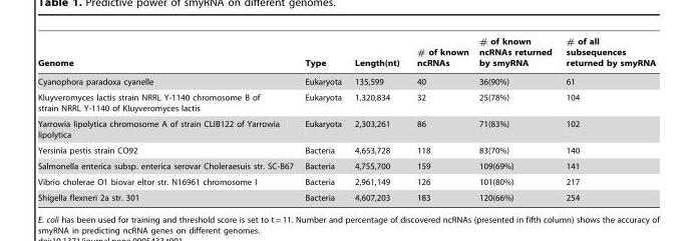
<table><thead><tr><td>Genome</td><td>Type</td><td>Length(nt)</td><td># of known ncRNAs</td><td># of known ncRNAs returned by smyRNA</td><td># of all subsequences returned by smyRNA</td></tr></thead><tbody><tr><td>Cyanophora paradoxa cyanelle</td><td>Eukaryota</td><td>135,599</td><td>40</td><td>36(90%)</td><td>61</td></tr><tr><td>Kluyveromyces lactis strain NRRL Y-1140 chromosome B of strain NRRL Y-1140 of Kluyveromyces lactis</td><td>Eukaryota</td><td>1,320,834</td><td>32</td><td>25(78%)</td><td>104</td></tr><tr><td>Yarrowia lipolytica chromosome A of strain CLIB122 of Yarrowia lipolytica</td><td>Eukaryota</td><td>2,303,261</td><td>86</td><td>71(83%)</td><td>102</td></tr><tr><td>Yersinia pestis strain CO92</td><td>Bacteria</td><td>4,653,728</td><td>118</td><td>83(70%)</td><td>140</td></tr><tr><td>Salmonella enterica subsp. enterica serovar Choleraesuis str. SC-B67</td><td>Bacteria</td><td>4,755,700</td><td>159</td><td>109(69%)</td><td>141</td></tr><tr><td>Vibrio cholerae O1 biovar eltor str. N16961 chromosome I</td><td>Bacteria</td><td>2,961,149</td><td>126</td><td>101(80%)</td><td>217</td></tr><tr><td>Shigella flexneri 2a str. 301</td><td>Bacteria</td><td>4,607,203</td><td>183</td><td>120(66%)</td><td>254</td></tr></tbody></table>